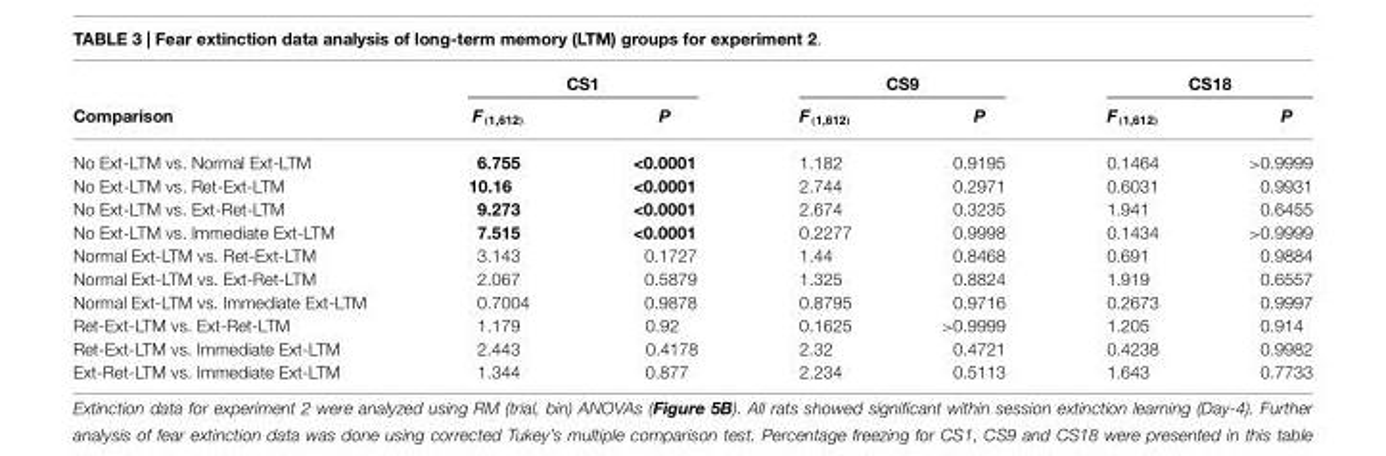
<table><thead><tr><td rowspan="2">Comparison</td><td colspan="2">CS1</td><td colspan="2">CS9</td><td colspan="2">CS18</td></tr><tr><td>F<sub>(1,612)</sub></td><td>P</td><td>F<sub>(1,612)</sub></td><td>P</td><td>F<sub>(1,612)</sub></td><td>P</td></tr></thead><tbody><tr><td>No Ext-LTM vs. Normal Ext-LTM</td><td>6.755</td><td>&lt;0.0001</td><td>1.182</td><td>0.9195</td><td>0.1464</td><td>&gt;0.9999</td></tr><tr><td>No Ext-LTM vs. Ret-Ext-LTM</td><td>10.16</td><td>&lt;0.0001</td><td>2.744</td><td>0.2971</td><td>0.6031</td><td>0.9931</td></tr><tr><td>No Ext-LTM vs. Ext-Ret-LTM</td><td>9.273</td><td>&lt;0.0001</td><td>2.674</td><td>0.3235</td><td>1.941</td><td>0.6455</td></tr><tr><td>No Ext-LTM vs. Immediate Ext-LTM</td><td>7.515</td><td>&lt;0.0001</td><td>0.2277</td><td>0.9998</td><td>0.1434</td><td>&gt;0.9999</td></tr><tr><td>Normal Ext-LTM vs. Ret-Ext-LTM</td><td>3.143</td><td>0.1727</td><td>1.44</td><td>0.8468</td><td>0.691</td><td>0.9884</td></tr><tr><td>Normal Ext-LTM vs. Ext-Ret-LTM</td><td>2.067</td><td>0.5879</td><td>1.325</td><td>0.8824</td><td>1.919</td><td>0.6557</td></tr><tr><td>Normal Ext-LTM vs. Immediate Ext-LTM</td><td>0.7004</td><td>0.9878</td><td>0.8795</td><td>0.9716</td><td>0.2673</td><td>0.9997</td></tr><tr><td>Ret-Ext-LTM vs. Ext-Ret-LTM</td><td>1.179</td><td>0.92</td><td>0.1625</td><td>&gt;0.9999</td><td>1.205</td><td>0.914</td></tr><tr><td>Ret-Ext-LTM vs. Immediate Ext-LTM</td><td>2.443</td><td>0.4178</td><td>2.32</td><td>0.4721</td><td>0.4238</td><td>0.9982</td></tr><tr><td>Ext-Ret-LTM vs. Immediate Ext-LTM</td><td>1.344</td><td>0.877</td><td>2.234</td><td>0.5113</td><td>1.643</td><td>0.7733</td></tr></tbody></table>